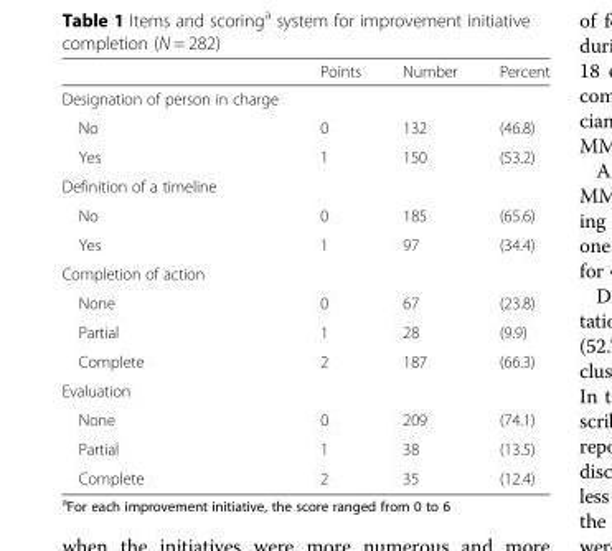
<table><thead><tr><td></td><td>Points</td><td>Number</td><td>Percent</td></tr></thead><tbody><tr><td colspan="4">Designation of person in charge</td></tr><tr><td>No</td><td>0</td><td>132</td><td>(46.8)</td></tr><tr><td>Yes</td><td>1</td><td>150</td><td>(53.2)</td></tr><tr><td colspan="4">Definition of a timeline</td></tr><tr><td>No</td><td>0</td><td>185</td><td>(65.6)</td></tr><tr><td>Yes</td><td>1</td><td>97</td><td>(34.4)</td></tr><tr><td colspan="4">Completion of action</td></tr><tr><td>None</td><td>0</td><td>67</td><td>(23.8)</td></tr><tr><td>Partial</td><td>1</td><td>28</td><td>(9.9)</td></tr><tr><td>Complete</td><td>2</td><td>187</td><td>(66.3)</td></tr><tr><td colspan="4">Evaluation</td></tr><tr><td>None</td><td>0</td><td>209</td><td>(74.1)</td></tr><tr><td>Partial</td><td>1</td><td>38</td><td>(13.5)</td></tr><tr><td>Complete</td><td>2</td><td>35</td><td>(12.4)</td></tr></tbody></table>